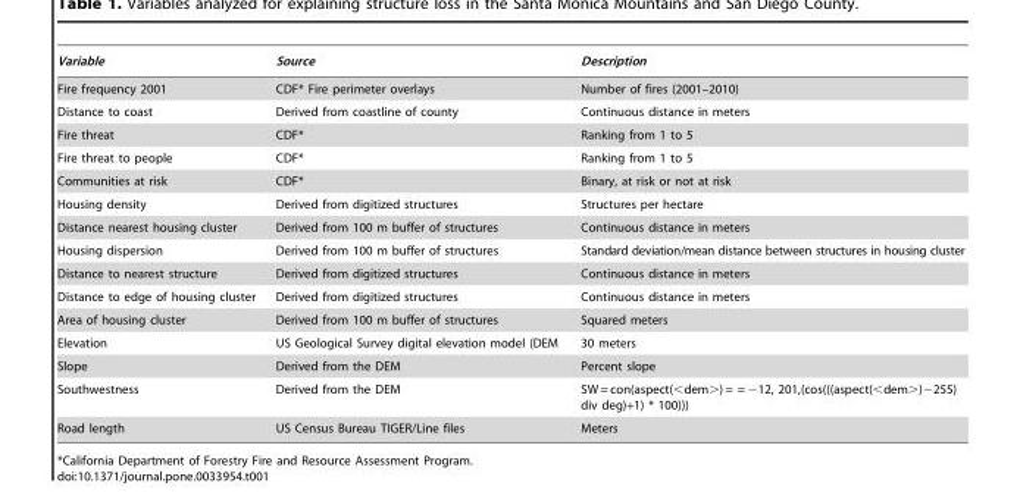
<table><thead><tr><td>Variable</td><td>Source</td><td>Description</td></tr></thead><tbody><tr><td>Fire frequency 2001</td><td>CDF* Fire perimeter overlays</td><td>Number of fires (2001–2010)</td></tr><tr><td>Distance to coast</td><td>Derived from coastline of county</td><td>Continuous distance in meters</td></tr><tr><td>Fire threat</td><td>CDF*</td><td>Ranking from 1 to 5</td></tr><tr><td>Fire threat to people</td><td>CDF*</td><td>Ranking from 1 to 5</td></tr><tr><td>Communities at risk</td><td>CDF*</td><td>Binary, at risk or not at risk</td></tr><tr><td>Housing density</td><td>Derived from digitized structures</td><td>Structures per hectare</td></tr><tr><td>Distance nearest housing cluster</td><td>Derived from 100 m buffer of structures</td><td>Continuous distance in meters</td></tr><tr><td>Housing dispersion</td><td>Derived from 100 m buffer of structures</td><td>Standard deviation/mean distance between structures in housing cluster</td></tr><tr><td>Distance to nearest structure</td><td>Derived from digitized structures</td><td>Continuous distance in meters</td></tr><tr><td>Distance to edge of housing cluster</td><td>Derived from digitized structures</td><td>Continuous distance in meters</td></tr><tr><td>Area of housing cluster</td><td>Derived from 100 m buffer of structures</td><td>Squared meters</td></tr><tr><td>Elevation</td><td>US Geological Survey digital elevation model (DEM</td><td>30 meters</td></tr><tr><td>Slope</td><td>Derived from the DEM</td><td>Percent slope</td></tr><tr><td>Southwestness</td><td>Derived from the DEM</td><td>SW = con(aspect(&lt;dem&gt;) = = −12, 201,(cos(((aspect(&lt;dem&gt;)−255) div deg)+1) * 100)))</td></tr><tr><td>Road length</td><td>US Census Bureau TIGER/Line files</td><td>Meters</td></tr></tbody></table>